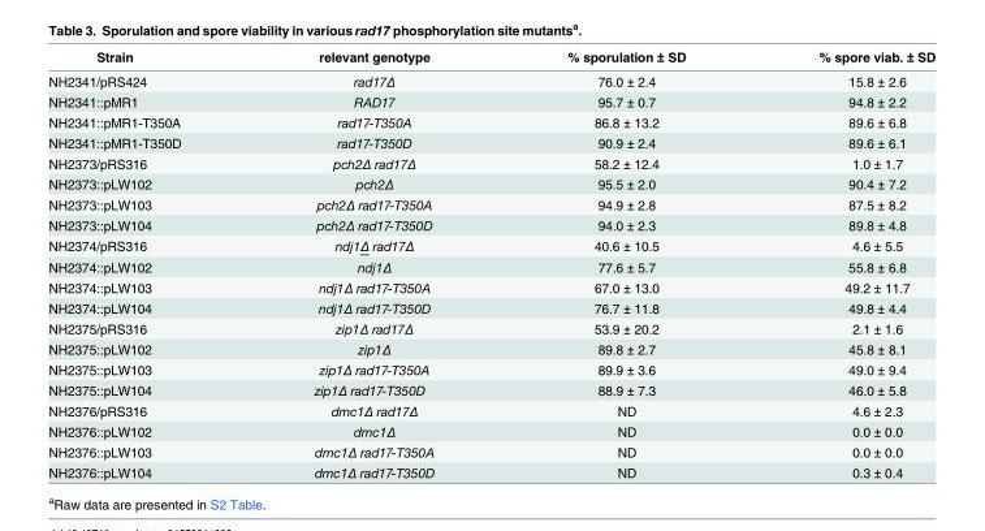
<table><thead><tr><td>Strain</td><td>relevant genotype</td><td>% sporulation ± SD</td><td>% spore viab. ± SD</td></tr></thead><tbody><tr><td>NH2341/pRS424</td><td>rad17Δ</td><td>76.0 ± 2.4</td><td>15.8 ± 2.6</td></tr><tr><td>NH2341::pMR1</td><td>RAD17</td><td>95.7 ± 0.7</td><td>94.8 ± 2.2</td></tr><tr><td>NH2341::pMR1-T350A</td><td>rad17-T350A</td><td>86.8 ± 13.2</td><td>89.6 ± 6.8</td></tr><tr><td>NH2341::pMR1-T350D</td><td>rad17-T350D</td><td>90.9 ± 2.4</td><td>89.6 ± 6.1</td></tr><tr><td>NH2373/pRS316</td><td>pch2Δ rad17Δ</td><td>58.2 ± 12.4</td><td>1.0 ± 1.7</td></tr><tr><td>NH2373::pLW102</td><td>pch2Δ</td><td>95.5 ± 2.0</td><td>90.4 ± 7.2</td></tr><tr><td>NH2373::pLW103</td><td>pch2Δ rad17-T350A</td><td>94.9 ± 2.8</td><td>87.5 ± 8.2</td></tr><tr><td>NH2373::pLW104</td><td>pch2Δ rad17-T350D</td><td>94.0 ± 2.3</td><td>89.8 ± 4.8</td></tr><tr><td>NH2374/pRS316</td><td>ndj1Δ rad17Δ</td><td>40.6 ± 10.5</td><td>4.6 ± 5.5</td></tr><tr><td>NH2374::pLW102</td><td>ndj1Δ</td><td>77.6 ± 5.7</td><td>55.8 ± 6.8</td></tr><tr><td>NH2374::pLW103</td><td>ndj1Δ rad17-T350A</td><td>67.0 ± 13.0</td><td>49.2 ± 11.7</td></tr><tr><td>NH2374::pLW104</td><td>ndj1Δ rad17-T350D</td><td>76.7 ± 11.8</td><td>49.8 ± 4.4</td></tr><tr><td>NH2375/pRS316</td><td>zip1Δ rad17Δ</td><td>53.9 ± 20.2</td><td>2.1 ± 1.6</td></tr><tr><td>NH2375::pLW102</td><td>zip1Δ</td><td>89.8 ± 2.7</td><td>45.8 ± 8.1</td></tr><tr><td>NH2375::pLW103</td><td>zip1Δ rad17-T350A</td><td>89.9 ± 3.6</td><td>49.0 ± 9.4</td></tr><tr><td>NH2375::pLW104</td><td>zip1Δ rad17-T350D</td><td>88.9 ± 7.3</td><td>46.0 ± 5.8</td></tr><tr><td>NH2376/pRS316</td><td>dmc1Δ rad17Δ</td><td>ND</td><td>4.6 ± 2.3</td></tr><tr><td>NH2376::pLW102</td><td>dmc1Δ</td><td>ND</td><td>0.0 ± 0.0</td></tr><tr><td>NH2376::pLW103</td><td>dmc1Δ rad17-T350A</td><td>ND</td><td>0.0 ± 0.0</td></tr><tr><td>NH2376::pLW104</td><td>dmc1Δ rad17-T350D</td><td>ND</td><td>0.3 ± 0.4</td></tr></tbody></table>